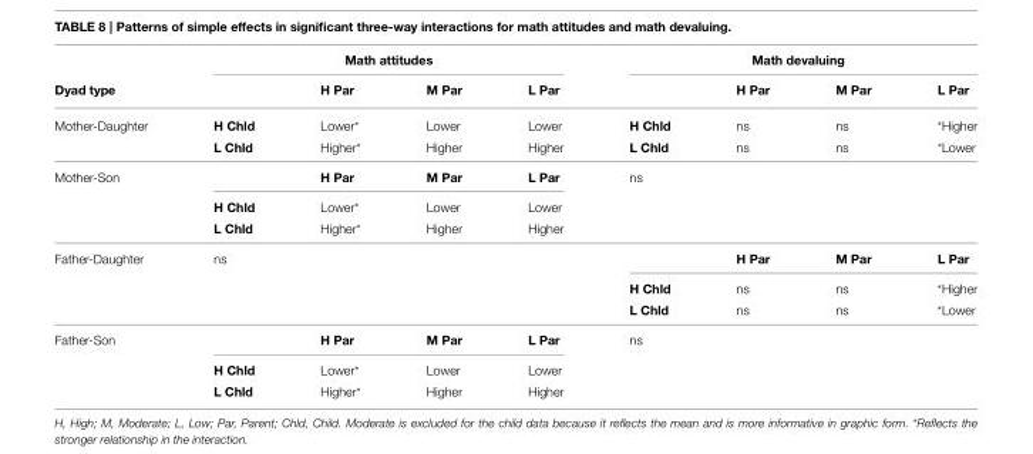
<table><thead><tr><td rowspan="2">Dyad type</td><td colspan="4">Math attitudes</td><td colspan="4">Math devaluing</td></tr><tr><td></td><td>H Par</td><td>M Par</td><td>L Par</td><td></td><td>H Par</td><td>M Par</td><td>L Par</td></tr></thead><tbody><tr><td rowspan="2">Mother-Daughter</td><td>H Chld</td><td>Lower*</td><td>Lower</td><td>Lower</td><td>H Chld</td><td>ns</td><td>ns</td><td>*Higher</td></tr><tr><td>L Chld</td><td>Higher*</td><td>Higher</td><td>Higher</td><td>L Chld</td><td>ns</td><td>ns</td><td>*Lower</td></tr><tr><td rowspan="3">Mother-Son</td><td></td><td>H Par</td><td>M Par</td><td>L Par</td><td colspan="4">ns</td></tr><tr><td>H Chld</td><td>Lower*</td><td>Lower</td><td>Lower</td><td colspan="4"></td></tr><tr><td>L Chld</td><td>Higher*</td><td>Higher</td><td>Higher</td><td colspan="4"></td></tr><tr><td rowspan="3">Father-Daughter</td><td colspan="4">ns</td><td></td><td>H Par</td><td>M Par</td><td>L Par</td></tr><tr><td colspan="4"></td><td>H Chld</td><td>ns</td><td>ns</td><td>*Higher</td></tr><tr><td colspan="4"></td><td>L Chld</td><td>ns</td><td>ns</td><td>*Lower</td></tr><tr><td rowspan="3">Father-Son</td><td></td><td>H Par</td><td>M Par</td><td>L Par</td><td colspan="4">ns</td></tr><tr><td>H Chld</td><td>Lower*</td><td>Lower</td><td>Lower</td><td colspan="4"></td></tr><tr><td>L Chld</td><td>Higher*</td><td>Higher</td><td>Higher</td><td colspan="4"></td></tr></tbody></table>